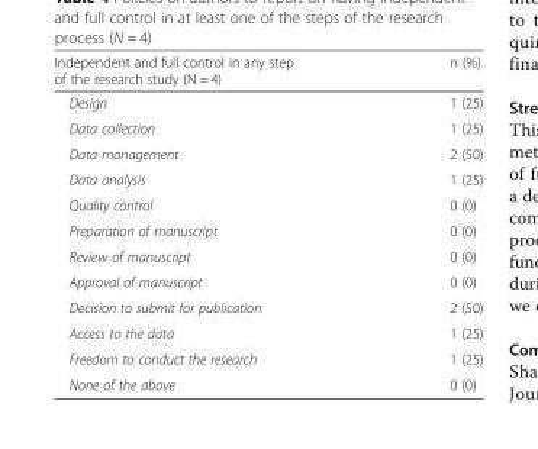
<table><thead><tr><td>Independent and full control in any step of the research study (N = 4)</td><td>n (%)</td></tr></thead><tbody><tr><td>Design</td><td>1 (25)</td></tr><tr><td>Data collection</td><td>1 (25)</td></tr><tr><td>Data management</td><td>2 (50)</td></tr><tr><td>Data analysis</td><td>1 (25)</td></tr><tr><td>Quality control</td><td>0 (0)</td></tr><tr><td>Preparation of manuscript</td><td>0 (0)</td></tr><tr><td>Review of manuscript</td><td>0 (0)</td></tr><tr><td>Approval of manuscript</td><td>0 (0)</td></tr><tr><td>Decision to submit for publication</td><td>2 (50)</td></tr><tr><td>Access to the data</td><td>1 (25)</td></tr><tr><td>Freedom to conduct the research</td><td>1 (25)</td></tr><tr><td>None of the above</td><td>0 (0)</td></tr></tbody></table>